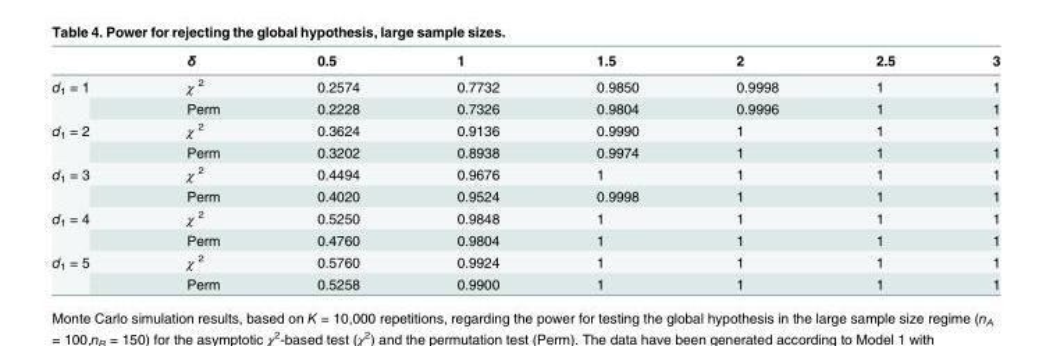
<table><thead><tr><td></td><td>δ</td><td>0.5</td><td>1</td><td>1.5</td><td>2</td><td>2.5</td><td>3</td></tr></thead><tbody><tr><td rowspan="2">d<sub>1</sub> = 1</td><td>χ <sup>2</sup></td><td>0.2574</td><td>0.7732</td><td>0.9850</td><td>0.9998</td><td>1</td><td>1</td></tr><tr><td>Perm</td><td>0.2228</td><td>0.7326</td><td>0.9804</td><td>0.9996</td><td>1</td><td>1</td></tr><tr><td rowspan="2">d<sub>1</sub> = 2</td><td>χ <sup>2</sup></td><td>0.3624</td><td>0.9136</td><td>0.9990</td><td>1</td><td>1</td><td>1</td></tr><tr><td>Perm</td><td>0.3202</td><td>0.8938</td><td>0.9974</td><td>1</td><td>1</td><td>1</td></tr><tr><td rowspan="2">d<sub>1</sub> = 3</td><td>χ <sup>2</sup></td><td>0.4494</td><td>0.9676</td><td>1</td><td>1</td><td>1</td><td>1</td></tr><tr><td>Perm</td><td>0.4020</td><td>0.9524</td><td>0.9998</td><td>1</td><td>1</td><td>1</td></tr><tr><td rowspan="2">d<sub>1</sub> = 4</td><td>χ <sup>2</sup></td><td>0.5250</td><td>0.9848</td><td>1</td><td>1</td><td>1</td><td>1</td></tr><tr><td>Perm</td><td>0.4760</td><td>0.9804</td><td>1</td><td>1</td><td>1</td><td>1</td></tr><tr><td rowspan="2">d<sub>1</sub> = 5</td><td>χ <sup>2</sup></td><td>0.5760</td><td>0.9924</td><td>1</td><td>1</td><td>1</td><td>1</td></tr><tr><td>Perm</td><td>0.5258</td><td>0.9900</td><td>1</td><td>1</td><td>1</td><td>1</td></tr></tbody></table>